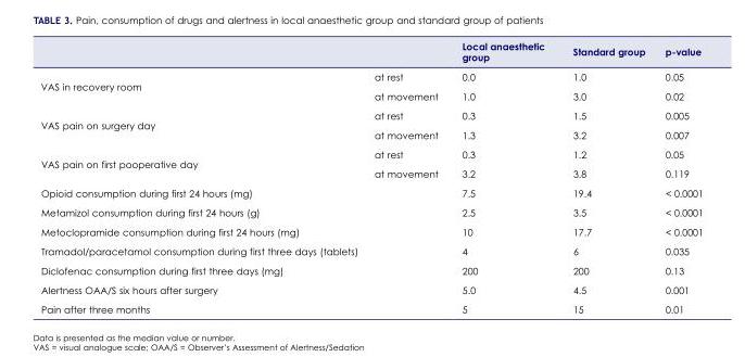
<table><thead><tr><td></td><td></td><td>Local anaesthetic group</td><td>Standard group</td><td>p-value</td></tr></thead><tbody><tr><td rowspan="2">VAS in recovery room</td><td>at rest</td><td>0.0</td><td>1.0</td><td>0.05</td></tr><tr><td>at movement</td><td>1.0</td><td>3.0</td><td>0.02</td></tr><tr><td rowspan="2">VAS pain on surgery day</td><td>at rest</td><td>0.3</td><td>1.5</td><td>0.005</td></tr><tr><td>at movement</td><td>1.3</td><td>3.2</td><td>0.007</td></tr><tr><td rowspan="2">VAS pain on first pooperative day</td><td>at rest</td><td>0.3</td><td>1.2</td><td>0.05</td></tr><tr><td>at movement</td><td>3.2</td><td>3.8</td><td>0.119</td></tr><tr><td>Opioid consumption during first 24 hours (mg)</td><td></td><td>7.5</td><td>19.4</td><td>&lt; 0.0001</td></tr><tr><td>Metamizol consumption during first 24 hours (g)</td><td></td><td>2.5</td><td>3.5</td><td>&lt; 0.0001</td></tr><tr><td>Metoclopramide consumption during first 24 hours (mg)</td><td></td><td>10</td><td>17.7</td><td>&lt; 0.0001</td></tr><tr><td>Tramadol/paracetamol consumption during first three days (tablets)</td><td></td><td>4</td><td>6</td><td>0.035</td></tr><tr><td>Diclofenac consumption during first three days (mg)</td><td></td><td>200</td><td>200</td><td>0.13</td></tr><tr><td>Alertness OAA/S six hours after surgery</td><td></td><td>5.0</td><td>4.5</td><td>0.001</td></tr><tr><td>Pain after three months</td><td></td><td>5</td><td>15</td><td>0.01</td></tr></tbody></table>